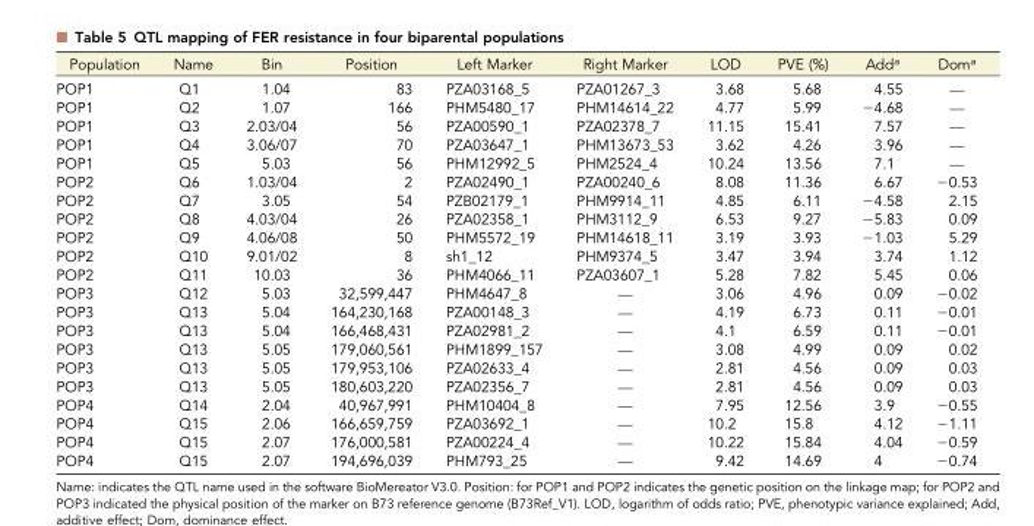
<table><thead><tr><td>Population</td><td>Name</td><td>Bin</td><td>Position</td><td>Left Marker</td><td>Right Marker</td><td>LOD</td><td>PVE (%)</td><td>Add<sup>a</sup></td><td>Dom<sup>a</sup></td></tr></thead><tbody><tr><td>POP1</td><td>Q1</td><td>1.04</td><td>83</td><td>PZA03168_5</td><td>PZA01267_3</td><td>3.68</td><td>5.68</td><td>4.55</td><td>—</td></tr><tr><td>POP1</td><td>Q2</td><td>1.07</td><td>166</td><td>PHM5480_17</td><td>PHM14614_22</td><td>4.77</td><td>5.99</td><td>−4.68</td><td>—</td></tr><tr><td>POP1</td><td>Q3</td><td>2.03/04</td><td>56</td><td>PZA00590_1</td><td>PZA02378_7</td><td>11.15</td><td>15.41</td><td>7.57</td><td>—</td></tr><tr><td>POP1</td><td>Q4</td><td>3.06/07</td><td>70</td><td>PZA03647_1</td><td>PHM13673_53</td><td>3.62</td><td>4.26</td><td>3.96</td><td>—</td></tr><tr><td>POP1</td><td>Q5</td><td>5.03</td><td>56</td><td>PHM12992_5</td><td>PHM2524_4</td><td>10.24</td><td>13.56</td><td>7.1</td><td>—</td></tr><tr><td>POP2</td><td>Q6</td><td>1.03/04</td><td>2</td><td>PZA02490_1</td><td>PZA00240_6</td><td>8.08</td><td>11.36</td><td>6.67</td><td>−0.53</td></tr><tr><td>POP2</td><td>Q7</td><td>3.05</td><td>54</td><td>PZB02179_1</td><td>PHM9914_11</td><td>4.85</td><td>6.11</td><td>−4.58</td><td>2.15</td></tr><tr><td>POP2</td><td>Q8</td><td>4.03/04</td><td>26</td><td>PZA02358_1</td><td>PHM3112_9</td><td>6.53</td><td>9.27</td><td>−5.83</td><td>0.09</td></tr><tr><td>POP2</td><td>Q9</td><td>4.06/08</td><td>50</td><td>PHM5572_19</td><td>PHM14618_11</td><td>3.19</td><td>3.93</td><td>−1.03</td><td>5.29</td></tr><tr><td>POP2</td><td>Q10</td><td>9.01/02</td><td>8</td><td>sh1_12</td><td>PHM9374_5</td><td>3.47</td><td>3.94</td><td>3.74</td><td>1.12</td></tr><tr><td>POP2</td><td>Q11</td><td>10.03</td><td>36</td><td>PHM4066_11</td><td>PZA03607_1</td><td>5.28</td><td>7.82</td><td>5.45</td><td>0.06</td></tr><tr><td>POP3</td><td>Q12</td><td>5.03</td><td>32,599,447</td><td>PHM4647_8</td><td>—</td><td>3.06</td><td>4.96</td><td>0.09</td><td>−0.02</td></tr><tr><td>POP3</td><td>Q13</td><td>5.04</td><td>164,230,168</td><td>PZA00148_3</td><td>—</td><td>4.19</td><td>6.73</td><td>0.11</td><td>−0.01</td></tr><tr><td>POP3</td><td>Q13</td><td>5.04</td><td>166,468,431</td><td>PZA02981_2</td><td>—</td><td>4.1</td><td>6.59</td><td>0.11</td><td>−0.01</td></tr><tr><td>POP3</td><td>Q13</td><td>5.05</td><td>179,060,561</td><td>PHM1899_157</td><td>—</td><td>3.08</td><td>4.99</td><td>0.09</td><td>0.02</td></tr><tr><td>POP3</td><td>Q13</td><td>5.05</td><td>179,953,106</td><td>PZA02633_4</td><td>—</td><td>2.81</td><td>4.56</td><td>0.09</td><td>0.03</td></tr><tr><td>POP3</td><td>Q13</td><td>5.05</td><td>180,603,220</td><td>PZA02356_7</td><td>—</td><td>2.81</td><td>4.56</td><td>0.09</td><td>0.03</td></tr><tr><td>POP4</td><td>Q14</td><td>2.04</td><td>40,967,991</td><td>PHM10404_8</td><td>—</td><td>7.95</td><td>12.56</td><td>3.9</td><td>−0.55</td></tr><tr><td>POP4</td><td>Q15</td><td>2.06</td><td>166,659,759</td><td>PZA03692_1</td><td>—</td><td>10.2</td><td>15.8</td><td>4.12</td><td>−1.11</td></tr><tr><td>POP4</td><td>Q15</td><td>2.07</td><td>176,000,581</td><td>PZA00224_4</td><td>—</td><td>10.22</td><td>15.84</td><td>4.04</td><td>−0.59</td></tr><tr><td>POP4</td><td>Q15</td><td>2.07</td><td>194,696,039</td><td>PHM793_25</td><td>—</td><td>9.42</td><td>14.69</td><td>4</td><td>−0.74</td></tr></tbody></table>